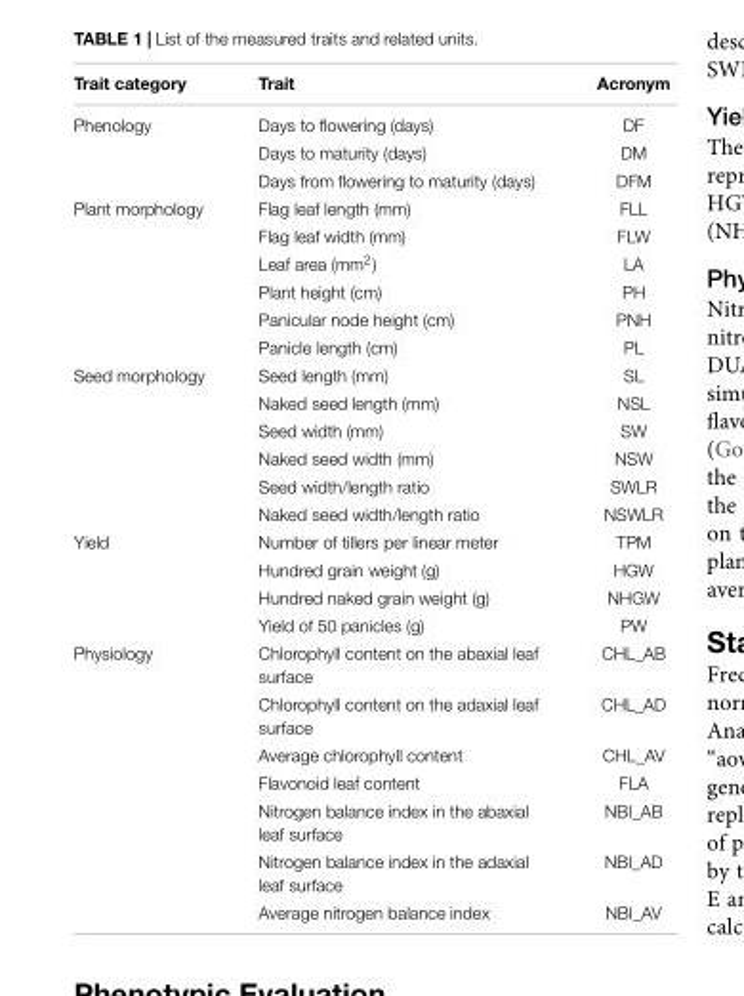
<table><thead><tr><td>Trait category</td><td>Trait</td><td>Acronym</td></tr></thead><tbody><tr><td rowspan="3">Phenology</td><td>Days to flowering (days)</td><td>DF</td></tr><tr><td>Days to maturity (days)</td><td>DM</td></tr><tr><td>Days from flowering to maturity (days)</td><td>DFM</td></tr><tr><td rowspan="6">Plant morphology</td><td>Flag leaf length (mm)</td><td>FLL</td></tr><tr><td>Flag leaf width (mm)</td><td>FLW</td></tr><tr><td>Leaf area (mm<sup>2</sup>)</td><td>LA</td></tr><tr><td>Plant height (cm)</td><td>PH</td></tr><tr><td>Panicular node height (cm)</td><td>PNH</td></tr><tr><td>Panicle length (cm)</td><td>PL</td></tr><tr><td rowspan="6">Seed morphology</td><td>Seed length (mm)</td><td>SL</td></tr><tr><td>Naked seed length (mm)</td><td>NSL</td></tr><tr><td>Seed width (mm)</td><td>SW</td></tr><tr><td>Naked seed width (mm)</td><td>NSW</td></tr><tr><td>Seed width/length ratio</td><td>SWLR</td></tr><tr><td>Naked seed width/length ratio</td><td>NSWLR</td></tr><tr><td rowspan="4">Yield</td><td>Number of tillers per linear meter</td><td>TPM</td></tr><tr><td>Hundred grain weight (g)</td><td>HGW</td></tr><tr><td>Hundred naked grain weight (g)</td><td>NHGW</td></tr><tr><td>Yield of 50 panicles (g)</td><td>PW</td></tr><tr><td rowspan="7">Physiology</td><td>Chlorophyll content on the abaxial leaf surface</td><td>CHL_AB</td></tr><tr><td>Chlorophyll content on the adaxial leaf surface</td><td>CHL_AD</td></tr><tr><td>Average chlorophyll content</td><td>CHL_AV</td></tr><tr><td>Flavonoid leaf content</td><td>FLA</td></tr><tr><td>Nitrogen balance index in the abaxial leaf surface</td><td>NBI_AB</td></tr><tr><td>Nitrogen balance index in the adaxial leaf surface</td><td>NBI_AD</td></tr><tr><td>Average nitrogen balance index</td><td>NBI_AV</td></tr></tbody></table>